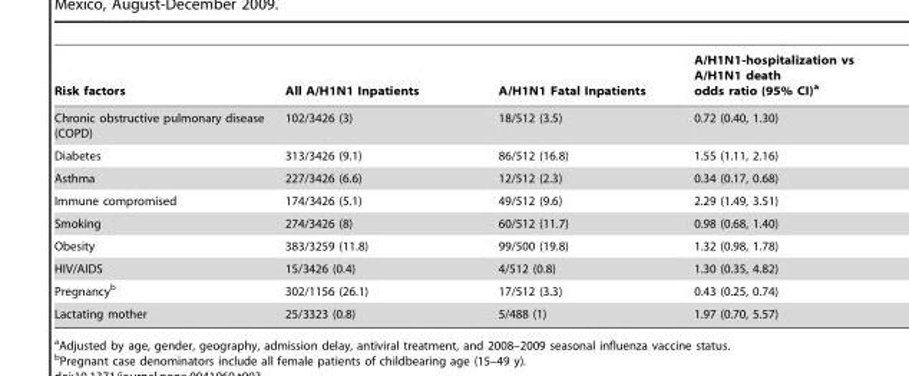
<table><thead><tr><td>Risk factors</td><td>All A/H1N1 Inpatients</td><td>A/H1N1 Fatal Inpatients</td><td>A/H1N1-hospitalization vs A/H1N1 death odds ratio (95% CI)<sup>a</sup></td></tr></thead><tbody><tr><td>Chronic obstructive pulmonary disease (COPD)</td><td>102/3426 (3)</td><td>18/512 (3.5)</td><td>0.72 (0.40, 1.30)</td></tr><tr><td>Diabetes</td><td>313/3426 (9.1)</td><td>86/512 (16.8)</td><td>1.55 (1.11, 2.16)</td></tr><tr><td>Asthma</td><td>227/3426 (6.6)</td><td>12/512 (2.3)</td><td>0.34 (0.17, 0.68)</td></tr><tr><td>Immune compromised</td><td>174/3426 (5.1)</td><td>49/512 (9.6)</td><td>2.29 (1.49, 3.51)</td></tr><tr><td>Smoking</td><td>274/3426 (8)</td><td>60/512 (11.7)</td><td>0.98 (0.68, 1.40)</td></tr><tr><td>Obesity</td><td>383/3259 (11.8)</td><td>99/500 (19.8)</td><td>1.32 (0.98, 1.78)</td></tr><tr><td>HIV/AIDS</td><td>15/3426 (0.4)</td><td>4/512 (0.8)</td><td>1.30 (0.35, 4.82)</td></tr><tr><td>Pregnancy<sup>b</sup></td><td>302/1156 (26.1)</td><td>17/512 (3.3)</td><td>0.43 (0.25, 0.74)</td></tr><tr><td>Lactating mother</td><td>25/3323 (0.8)</td><td>5/488 (1)</td><td>1.97 (0.70, 5.57)</td></tr></tbody></table>